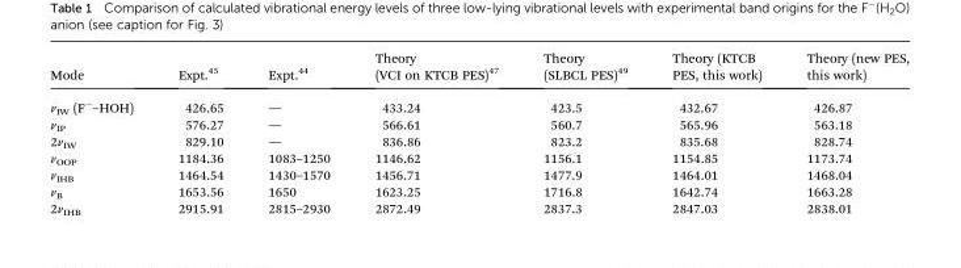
<table><thead><tr><td>Mode</td><td>Expt.<sup>45</sup></td><td>Expt.<sup>44</sup></td><td>Theory (VCI on KTCB PES)<sup>47</sup></td><td>Theory (SLBCL PES)<sup>49</sup></td><td>Theory (KTCB PES, this work)</td><td>Theory (new PES, this work)</td></tr></thead><tbody><tr><td>ν<sub>IW</sub> (F<sup>–</sup>–HOH)</td><td>426.65</td><td>—</td><td>433.24</td><td>423.5</td><td>432.67</td><td>426.87</td></tr><tr><td>ν<sub>IP</sub></td><td>576.27</td><td>—</td><td>566.61</td><td>560.7</td><td>565.96</td><td>563.18</td></tr><tr><td>2ν<sub>IW</sub></td><td>829.10</td><td>—</td><td>836.86</td><td>823.2</td><td>835.68</td><td>828.74</td></tr><tr><td>ν<sub>OOP</sub></td><td>1184.36</td><td>1083–1250</td><td>1146.62</td><td>1156.1</td><td>1154.85</td><td>1173.74</td></tr><tr><td>ν<sub>IHB</sub></td><td>1464.54</td><td>1430–1570</td><td>1456.71</td><td>1477.9</td><td>1464.01</td><td>1468.04</td></tr><tr><td>ν<sub>B</sub></td><td>1653.56</td><td>1650</td><td>1623.25</td><td>1716.8</td><td>1642.74</td><td>1663.28</td></tr><tr><td>2ν<sub>IHB</sub></td><td>2915.91</td><td>2815–2930</td><td>2872.49</td><td>2837.3</td><td>2847.03</td><td>2838.01</td></tr></tbody></table>